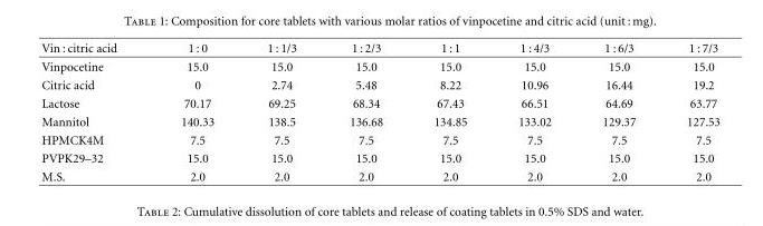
<table><thead><tr><td>Vin : citric acid</td><td>1 : 0</td><td>1 : 1/3</td><td>1 : 2/3</td><td>1 : 1</td><td>1 : 4/3</td><td>1 : 6/3</td><td>1 : 7/3</td></tr></thead><tbody><tr><td>Vinpocetine</td><td>15.0</td><td>15.0</td><td>15.0</td><td>15.0</td><td>15.0</td><td>15.0</td><td>15.0</td></tr><tr><td>Citric acid</td><td>0</td><td>2.74</td><td>5.48</td><td>8.22</td><td>10.96</td><td>16.44</td><td>19.2</td></tr><tr><td>Lactose</td><td>70.17</td><td>69.25</td><td>68.34</td><td>67.43</td><td>66.51</td><td>64.69</td><td>63.77</td></tr><tr><td>Mannitol</td><td>140.33</td><td>138.5</td><td>136.68</td><td>134.85</td><td>133.02</td><td>129.37</td><td>127.53</td></tr><tr><td>HPMCK4M</td><td>7.5</td><td>7.5</td><td>7.5</td><td>7.5</td><td>7.5</td><td>7.5</td><td>7.5</td></tr><tr><td>PVPK29–32</td><td>15.0</td><td>15.0</td><td>15.0</td><td>15.0</td><td>15.0</td><td>15.0</td><td>15.0</td></tr><tr><td>M.S.</td><td>2.0</td><td>2.0</td><td>2.0</td><td>2.0</td><td>2.0</td><td>2.0</td><td>2.0</td></tr></tbody></table>